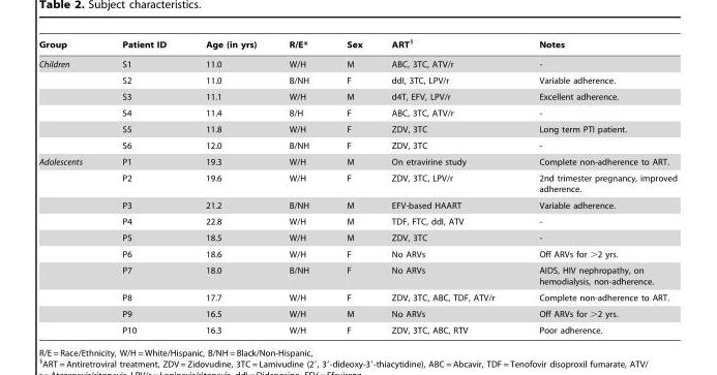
<table><thead><tr><td>Group</td><td>Patient ID</td><td>Age (in yrs)</td><td>R/E*</td><td>Sex</td><td>ART§</td><td>Notes</td></tr></thead><tbody><tr><td rowspan="6">Children</td><td>S1</td><td>11.0</td><td>W/H</td><td>M</td><td>ABC, 3TC, ATV/r</td><td>-</td></tr><tr><td>S2</td><td>11.0</td><td>B/NH</td><td>F</td><td>ddI, 3TC, LPV/r</td><td>Variable adherence.</td></tr><tr><td>S3</td><td>11.1</td><td>W/H</td><td>M</td><td>d4T, EFV, LPV/r</td><td>Excellent adherence.</td></tr><tr><td>S4</td><td>11.4</td><td>B/H</td><td>F</td><td>ABC, 3TC, ATV/r</td><td>-</td></tr><tr><td>S5</td><td>11.8</td><td>W/H</td><td>F</td><td>ZDV, 3TC</td><td>Long term PTI patient.</td></tr><tr><td>S6</td><td>12.0</td><td>B/NH</td><td>F</td><td>ZDV, 3TC</td><td>-</td></tr><tr><td rowspan="10">Adolescents</td><td>P1</td><td>19.3</td><td>W/H</td><td>M</td><td>On etravirine study</td><td>Complete non-adherence to ART.</td></tr><tr><td>P2</td><td>19.6</td><td>W/H</td><td>F</td><td>ZDV, 3TC, LPV/r</td><td>2nd trimester pregnancy, improved adherence.</td></tr><tr><td>P3</td><td>21.2</td><td>B/NH</td><td>M</td><td>EFV-based HAART</td><td>Variable adherence.</td></tr><tr><td>P4</td><td>22.8</td><td>W/H</td><td>M</td><td>TDF, FTC, ddI, ATV</td><td>-</td></tr><tr><td>P5</td><td>18.5</td><td>W/H</td><td>M</td><td>ZDV, 3TC</td><td>-</td></tr><tr><td>P6</td><td>18.6</td><td>W/H</td><td>F</td><td>No ARVs</td><td>Off ARVs for &gt;2 yrs.</td></tr><tr><td>P7</td><td>18.0</td><td>B/NH</td><td>F</td><td>No ARVs</td><td>AIDS, HIV nephropathy, on hemodialysis, non-adherence.</td></tr><tr><td>P8</td><td>17.7</td><td>W/H</td><td>F</td><td>ZDV, 3TC, ABC, TDF, ATV/r</td><td>Complete non-adherence to ART.</td></tr><tr><td>P9</td><td>16.5</td><td>W/H</td><td>M</td><td>No ARVs</td><td>Off ARVs for &gt;2 yrs.</td></tr><tr><td>P10</td><td>16.3</td><td>W/H</td><td>F</td><td>ZDV, 3TC, ABC, RTV</td><td>Poor adherence.</td></tr></tbody></table>